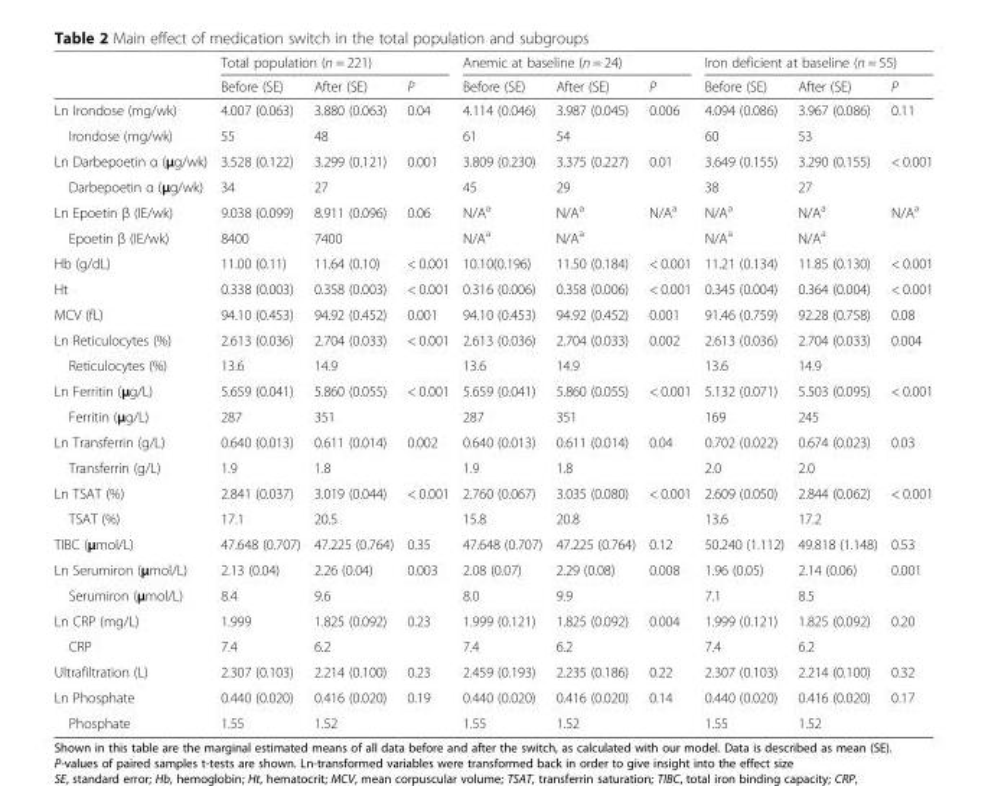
<table><thead><tr><td rowspan="2"></td><td colspan="3">Total population (n = 221)</td><td colspan="3">Anemic at baseline (n = 24)</td><td colspan="3">Iron deficient at baseline (n = 55)</td></tr><tr><td>Before (SE)</td><td>After (SE)</td><td>P</td><td>Before (SE)</td><td>After (SE)</td><td>P</td><td>Before (SE)</td><td>After (SE)</td><td>P</td></tr></thead><tbody><tr><td>Ln Irondose (mg/wk)</td><td>4.007 (0.063)</td><td>3.880 (0.063)</td><td>0.04</td><td>4.114 (0.046)</td><td>3.987 (0.045)</td><td>0.006</td><td>4.094 (0.086)</td><td>3.967 (0.086)</td><td>0.11</td></tr><tr><td>Irondose (mg/wk)</td><td>55</td><td>48</td><td></td><td>61</td><td>54</td><td></td><td>60</td><td>53</td><td></td></tr><tr><td>Ln Darbepoetin α (μg/wk)</td><td>3.528 (0.122)</td><td>3.299 (0.121)</td><td>0.001</td><td>3.809 (0.230)</td><td>3.375 (0.227)</td><td>0.01</td><td>3.649 (0.155)</td><td>3.290 (0.155)</td><td>&lt; 0.001</td></tr><tr><td>Darbepoetin α (μg/wk)</td><td>34</td><td>27</td><td></td><td>45</td><td>29</td><td></td><td>38</td><td>27</td><td></td></tr><tr><td>Ln Epoetin β (IE/wk)</td><td>9.038 (0.099)</td><td>8.911 (0.096)</td><td>0.06</td><td>N/A<sup>a</sup></td><td>N/A<sup>a</sup></td><td>N/A<sup>a</sup></td><td>N/A<sup>a</sup></td><td>N/A<sup>a</sup></td><td>N/A<sup>a</sup></td></tr><tr><td>Epoetin β (IE/wk)</td><td>8400</td><td>7400</td><td></td><td>N/A<sup>a</sup></td><td>N/A<sup>a</sup></td><td></td><td>N/A<sup>a</sup></td><td>N/A<sup>a</sup></td><td></td></tr><tr><td>Hb (g/dL)</td><td>11.00 (0.11)</td><td>11.64 (0.10)</td><td>&lt; 0.001</td><td>10.10(0.196)</td><td>11.50 (0.184)</td><td>&lt; 0.001</td><td>11.21 (0.134)</td><td>11.85 (0.130)</td><td>&lt; 0.001</td></tr><tr><td>Ht</td><td>0.338 (0.003)</td><td>0.358 (0.003)</td><td>&lt; 0.001</td><td>0.316 (0.006)</td><td>0.358 (0.006)</td><td>&lt; 0.001</td><td>0.345 (0.004)</td><td>0.364 (0.004)</td><td>&lt; 0.001</td></tr><tr><td>MCV (fL)</td><td>94.10 (0.453)</td><td>94.92 (0.452)</td><td>0.001</td><td>94.10 (0.453)</td><td>94.92 (0.452)</td><td>0.001</td><td>91.46 (0.759)</td><td>92.28 (0.758)</td><td>0.08</td></tr><tr><td>Ln Reticulocytes (%)</td><td>2.613 (0.036)</td><td>2.704 (0.033)</td><td>&lt; 0.001</td><td>2.613 (0.036)</td><td>2.704 (0.033)</td><td>0.002</td><td>2.613 (0.036)</td><td>2.704 (0.033)</td><td>0.004</td></tr><tr><td>Reticulocytes (%)</td><td>13.6</td><td>14.9</td><td></td><td>13.6</td><td>14.9</td><td></td><td>13.6</td><td>14.9</td><td></td></tr><tr><td>Ln Ferritin (μg/L)</td><td>5.659 (0.041)</td><td>5.860 (0.055)</td><td>&lt; 0.001</td><td>5.659 (0.041)</td><td>5.860 (0.055)</td><td>&lt; 0.001</td><td>5.132 (0.071)</td><td>5.503 (0.095)</td><td>&lt; 0.001</td></tr><tr><td>Ferritin (μg/L)</td><td>287</td><td>351</td><td></td><td>287</td><td>351</td><td></td><td>169</td><td>245</td><td></td></tr><tr><td>Ln Transferrin (g/L)</td><td>0.640 (0.013)</td><td>0.611 (0.014)</td><td>0.002</td><td>0.640 (0.013)</td><td>0.611 (0.014)</td><td>0.04</td><td>0.702 (0.022)</td><td>0.674 (0.023)</td><td>0.03</td></tr><tr><td>Transferrin (g/L)</td><td>1.9</td><td>1.8</td><td></td><td>1.9</td><td>1.8</td><td></td><td>2.0</td><td>2.0</td><td></td></tr><tr><td>Ln TSAT (%)</td><td>2.841 (0.037)</td><td>3.019 (0.044)</td><td>&lt; 0.001</td><td>2.760 (0.067)</td><td>3.035 (0.080)</td><td>&lt; 0.001</td><td>2.609 (0.050)</td><td>2.844 (0.062)</td><td>&lt; 0.001</td></tr><tr><td>TSAT (%)</td><td>17.1</td><td>20.5</td><td></td><td>15.8</td><td>20.8</td><td></td><td>13.6</td><td>17.2</td><td></td></tr><tr><td>TIBC (μmol/L)</td><td>47.648 (0.707)</td><td>47.225 (0.764)</td><td>0.35</td><td>47.648 (0.707)</td><td>47.225 (0.764)</td><td>0.12</td><td>50.240 (1.112)</td><td>49.818 (1.148)</td><td>0.53</td></tr><tr><td>Ln Serumiron (μmol/L)</td><td>2.13 (0.04)</td><td>2.26 (0.04)</td><td>0.003</td><td>2.08 (0.07)</td><td>2.29 (0.08)</td><td>0.008</td><td>1.96 (0.05)</td><td>2.14 (0.06)</td><td>0.001</td></tr><tr><td>Serumiron (μmol/L)</td><td>8.4</td><td>9.6</td><td></td><td>8.0</td><td>9.9</td><td></td><td>7.1</td><td>8.5</td><td></td></tr><tr><td>Ln CRP (mg/L)</td><td>1.999</td><td>1.825 (0.092)</td><td>0.23</td><td>1.999 (0.121)</td><td>1.825 (0.092)</td><td>0.004</td><td>1.999 (0.121)</td><td>1.825 (0.092)</td><td>0.20</td></tr><tr><td>CRP</td><td>7.4</td><td>6.2</td><td></td><td>7.4</td><td>6.2</td><td></td><td>7.4</td><td>6.2</td><td></td></tr><tr><td>Ultrafiltration (L)</td><td>2.307 (0.103)</td><td>2.214 (0.100)</td><td>0.23</td><td>2.459 (0.193)</td><td>2.235 (0.186)</td><td>0.22</td><td>2.307 (0.103)</td><td>2.214 (0.100)</td><td>0.32</td></tr><tr><td>Ln Phosphate</td><td>0.440 (0.020)</td><td>0.416 (0.020)</td><td>0.19</td><td>0.440 (0.020)</td><td>0.416 (0.020)</td><td>0.14</td><td>0.440 (0.020)</td><td>0.416 (0.020)</td><td>0.17</td></tr><tr><td>Phosphate</td><td>1.55</td><td>1.52</td><td></td><td>1.55</td><td>1.52</td><td></td><td>1.55</td><td>1.52</td><td></td></tr></tbody></table>